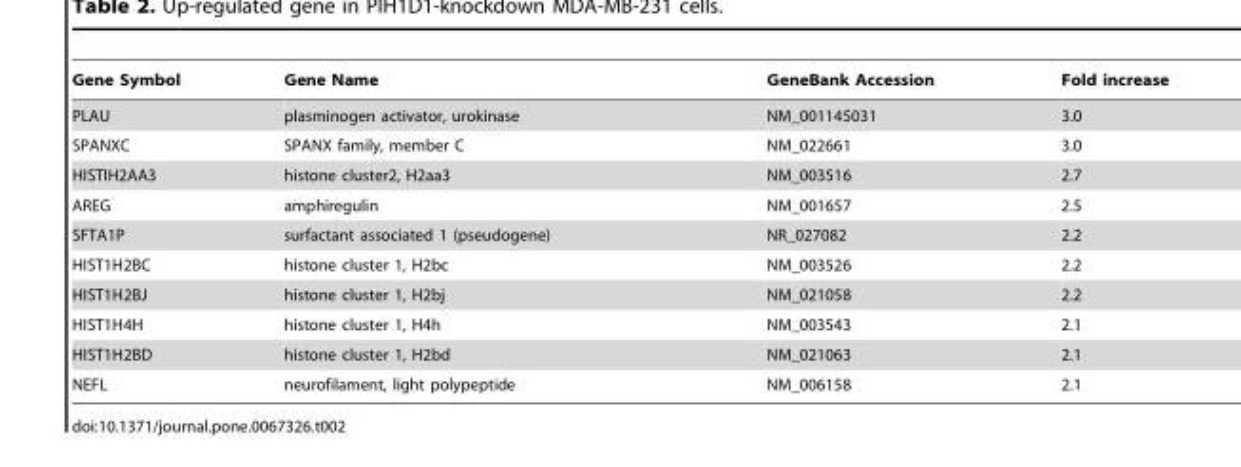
<table><thead><tr><td>Gene Symbol</td><td>Gene Name</td><td>GeneBank Accession</td><td>Fold increase</td></tr></thead><tbody><tr><td>PLAU</td><td>plasminogen activator, urokinase</td><td>NM_001145031</td><td>3.0</td></tr><tr><td>SPANXC</td><td>SPANX family, member C</td><td>NM_022661</td><td>3.0</td></tr><tr><td>HISTIH2AA3</td><td>histone cluster2, H2aa3</td><td>NM_003516</td><td>2.7</td></tr><tr><td>AREG</td><td>amphiregulin</td><td>NM_001657</td><td>2.5</td></tr><tr><td>SFTA1P</td><td>surfactant associated 1 (pseudogene)</td><td>NR_027082</td><td>2.2</td></tr><tr><td>HIST1H2BC</td><td>histone cluster 1, H2bc</td><td>NM_003526</td><td>2.2</td></tr><tr><td>HIST1H2BJ</td><td>histone cluster 1, H2bj</td><td>NM_021058</td><td>2.2</td></tr><tr><td>HIST1H4H</td><td>histone cluster 1, H4h</td><td>NM_003543</td><td>2.1</td></tr><tr><td>HIST1H2BD</td><td>histone cluster 1, H2bd</td><td>NM_021063</td><td>2.1</td></tr><tr><td>NEFL</td><td>neurofilament, light polypeptide</td><td>NM_006158</td><td>2.1</td></tr></tbody></table>